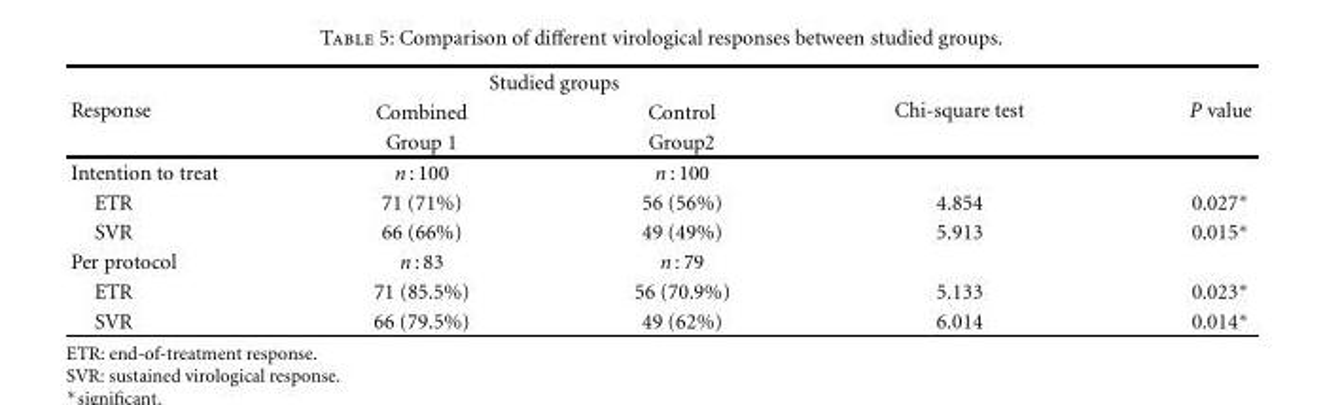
<table><thead><tr><td rowspan="3">Response</td><td colspan="2">Studied groups</td><td rowspan="3">Chi-square test</td><td rowspan="3">P value</td></tr><tr><td rowspan="2">Combined Group 1</td><td rowspan="2">Control Group2</td></tr><tr></tr></thead><tbody><tr><td>Intention to treat</td><td>n : 100</td><td>n : 100</td><td></td><td></td></tr><tr><td>ETR</td><td>71 (71%)</td><td>56 (56%)</td><td>4.854</td><td>0.027∗</td></tr><tr><td>SVR</td><td>66 (66%)</td><td>49 (49%)</td><td>5.913</td><td>0.015∗</td></tr><tr><td>Per protocol</td><td>n : 83</td><td>n : 79</td><td></td><td></td></tr><tr><td>ETR</td><td>71 (85.5%)</td><td>56 (70.9%)</td><td>5.133</td><td>0.023∗</td></tr><tr><td>SVR</td><td>66 (79.5%)</td><td>49 (62%)</td><td>6.014</td><td>0.014∗</td></tr></tbody></table>